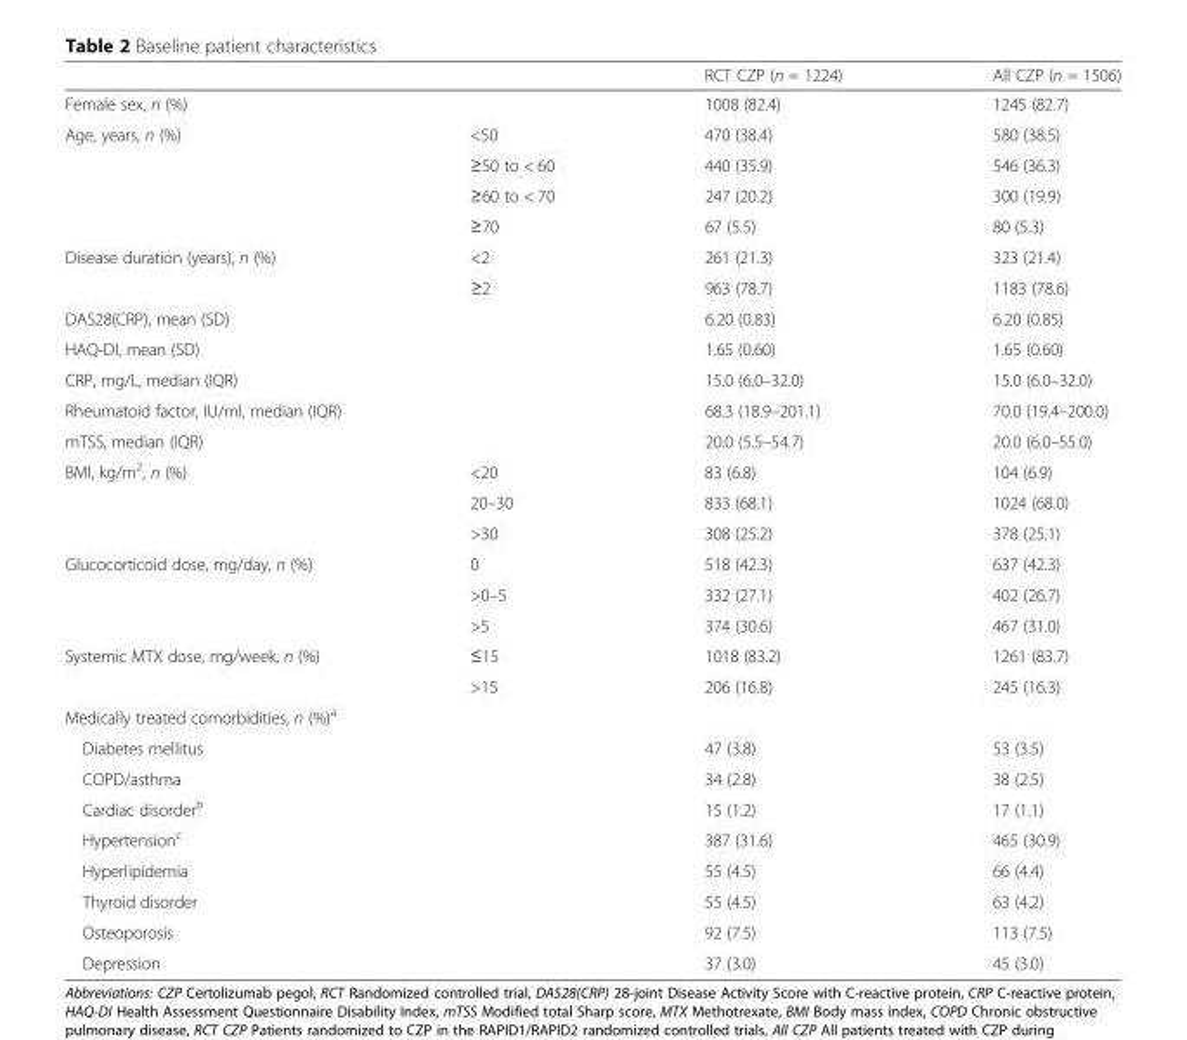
<table><thead><tr><td></td><td></td><td>RCT CZP (n = 1224)</td><td>All CZP (n = 1506)</td></tr></thead><tbody><tr><td colspan="2">Female sex, n (%)</td><td>1008 (82.4)</td><td>1245 (82.7)</td></tr><tr><td rowspan="4">Age, years, n (%)</td><td>&lt;50</td><td>470 (38.4)</td><td>580 (38.5)</td></tr><tr><td>≥50 to &lt; 60</td><td>440 (35.9)</td><td>546 (36.3)</td></tr><tr><td>≥60 to &lt; 70</td><td>247 (20.2)</td><td>300 (19.9)</td></tr><tr><td>≥70</td><td>67 (5.5)</td><td>80 (5.3)</td></tr><tr><td rowspan="2">Disease duration (years), n (%)</td><td>&lt;2</td><td>261 (21.3)</td><td>323 (21.4)</td></tr><tr><td>≥2</td><td>963 (78.7)</td><td>1183 (78.6)</td></tr><tr><td colspan="2">DAS28(CRP), mean (SD)</td><td>6.20 (0.83)</td><td>6.20 (0.85)</td></tr><tr><td colspan="2">HAQ-DI, mean (SD)</td><td>1.65 (0.60)</td><td>1.65 (0.60)</td></tr><tr><td colspan="2">CRP, mg/L, median (IQR)</td><td>15.0 (6.0–32.0)</td><td>15.0 (6.0–32.0)</td></tr><tr><td colspan="2">Rheumatoid factor, IU/ml, median (IQR)</td><td>68.3 (18.9–201.1)</td><td>70.0 (19.4–200.0)</td></tr><tr><td colspan="2">mTSS, median (IQR)</td><td>20.0 (5.5–54.7)</td><td>20.0 (6.0–55.0)</td></tr><tr><td rowspan="3">BMI, kg/m<sup>2</sup>, n (%)</td><td>&lt;20</td><td>83 (6.8)</td><td>104 (6.9)</td></tr><tr><td>20–30</td><td>833 (68.1)</td><td>1024 (68.0)</td></tr><tr><td>&gt;30</td><td>308 (25.2)</td><td>378 (25.1)</td></tr><tr><td rowspan="3">Glucocorticoid dose, mg/day, n (%)</td><td>0</td><td>518 (42.3)</td><td>637 (42.3)</td></tr><tr><td>&gt;0–5</td><td>332 (27.1)</td><td>402 (26.7)</td></tr><tr><td>&gt;5</td><td>374 (30.6)</td><td>467 (31.0)</td></tr><tr><td rowspan="2">Systemic MTX dose, mg/week, n (%)</td><td>≤15</td><td>1018 (83.2)</td><td>1261 (83.7)</td></tr><tr><td>&gt;15</td><td>206 (16.8)</td><td>245 (16.3)</td></tr><tr><td colspan="4">Medically treated comorbidities, n (%)<sup>a</sup></td></tr><tr><td colspan="2">Diabetes mellitus</td><td>47 (3.8)</td><td>53 (3.5)</td></tr><tr><td colspan="2">COPD/asthma</td><td>34 (2.8)</td><td>38 (2.5)</td></tr><tr><td colspan="2">Cardiac disorder<sup>b</sup></td><td>15 (1.2)</td><td>17 (1.1)</td></tr><tr><td colspan="2">Hypertension<sup>c</sup></td><td>387 (31.6)</td><td>465 (30.9)</td></tr><tr><td colspan="2">Hyperlipidemia</td><td>55 (4.5)</td><td>66 (4.4)</td></tr><tr><td colspan="2">Thyroid disorder</td><td>55 (4.5)</td><td>63 (4.2)</td></tr><tr><td colspan="2">Osteoporosis</td><td>92 (7.5)</td><td>113 (7.5)</td></tr><tr><td colspan="2">Depression</td><td>37 (3.0)</td><td>45 (3.0)</td></tr></tbody></table>